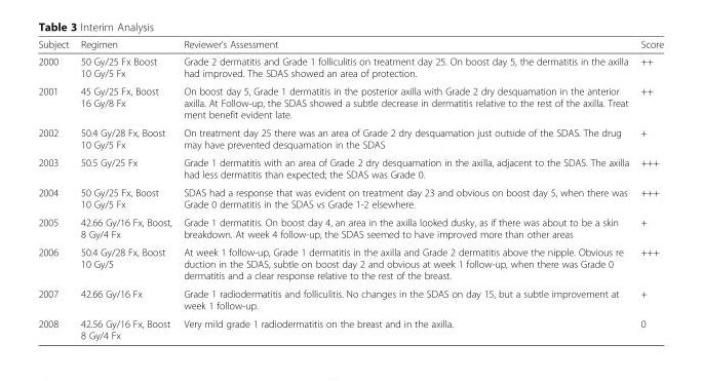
<table><thead><tr><td>Subject</td><td>Regimen</td><td>Reviewer’s Assessment</td><td>Score</td></tr></thead><tbody><tr><td>2000</td><td>50 Gy/25 Fx Boost 10 Gy/5 Fx</td><td>Grade 2 dermatitis and Grade 1 folliculitis on treatment day 25. On boost day 5, the dermatitis in the axilla had improved. The SDAS showed an area of protection.</td><td>++</td></tr><tr><td>2001</td><td>45 Gy/25 Fx, Boost 16 Gy/8 Fx</td><td>On boost day 5, Grade 1 dermatitis in the posterior axilla with Grade 2 dry desquamation in the anterior axilla. At Follow-up, the SDAS showed a subtle decrease in dermatitis relative to the rest of the axilla. Treat ment benefit evident late.</td><td>++</td></tr><tr><td>2002</td><td>50.4 Gy/28 Fx, Boost 10 Gy/5 Fx</td><td>On treatment day 25 there was an area of Grade 2 dry desquamation just outside of the SDAS. The drug may have prevented desquamation in the SDAS</td><td>+</td></tr><tr><td>2003</td><td>50.5 Gy/25 Fx</td><td>Grade 1 dermatitis with an area of Grade 2 dry desquamation in the axilla, adjacent to the SDAS. The axilla had less dermatitis than expected; the SDAS was Grade 0.</td><td>+++</td></tr><tr><td>2004</td><td>50 Gy/25 Fx, Boost 10 Gy/5 Fx</td><td>SDAS had a response that was evident on treatment day 23 and obvious on boost day 5, when there was Grade 0 dermatitis in the SDAS vs Grade 1-2 elsewhere.</td><td>+++</td></tr><tr><td>2005</td><td>42.66 Gy/16 Fx, Boost, 8 Gy/4 Fx</td><td>Grade 1 dermatitis. On boost day 4, an area in the axilla looked dusky, as if there was about to be a skin breakdown. At week 4 follow-up, the SDAS seemed to have improved more than other areas</td><td>+</td></tr><tr><td>2006</td><td>50.4 Gy/28 Fx, Boost 10 Gy/5</td><td>At week 1 follow-up, Grade 1 dermatitis in the axilla and Grade 2 dermatitis above the nipple. Obvious re duction in the SDAS, subtle on boost day 2 and obvious at week 1 follow-up, when there was Grade 0 dermatitis and a clear response relative to the rest of the breast.</td><td>+++</td></tr><tr><td>2007</td><td>42.66 Gy/16 Fx</td><td>Grade 1 radiodermatitis and folliculitis. No changes in the SDAS on day 15, but a subtle improvement at week 1 follow-up.</td><td>+</td></tr><tr><td>2008</td><td>42.56 Gy/16 Fx, Boost 8 Gy/4 Fx</td><td>Very mild grade 1 radiodermatitis on the breast and in the axilla.</td><td>0</td></tr></tbody></table>